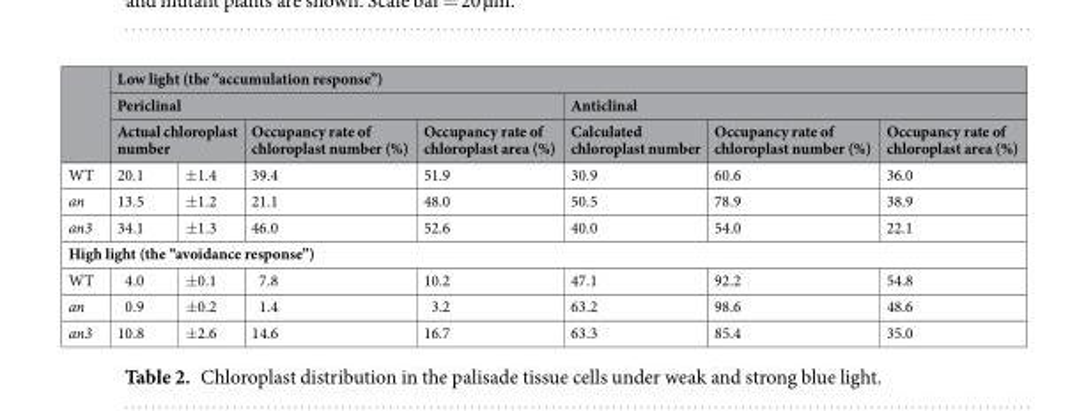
<table><thead><tr><td rowspan="4">WT</td><td colspan="7">Low light (the “accumulation response”)</td></tr><tr><td colspan="4">Periclinal</td><td colspan="3">Anticlinal</td></tr><tr><td colspan="2">Actual chloroplast number</td><td rowspan="2">Occupancy rate of chloroplast number (%) 39.4</td><td rowspan="2">Occupancy rate of chloroplast area (%) 51.9</td><td rowspan="2">Calculated chloroplast number 30.9</td><td rowspan="2">Occupancy rate of chloroplast number (%) 60.6</td><td rowspan="2">Occupancy rate of chloroplast area (%) 36.0</td></tr><tr><td>20.1</td><td>±1.4</td></tr></thead><tbody><tr><td>an</td><td>13.5</td><td>±1.2</td><td>21.1</td><td>48.0</td><td>50.5</td><td>78.9</td><td>38.9</td></tr><tr><td>an3</td><td>34.1</td><td>±1.3</td><td>46.0</td><td>52.6</td><td>40.0</td><td>54.0</td><td>22.1</td></tr><tr><td colspan="8">High light (the “avoidance response”)</td></tr><tr><td>WT</td><td>4.0</td><td>±0.1</td><td>7.8</td><td>10.2</td><td>47.1</td><td>92.2</td><td>54.8</td></tr><tr><td>an</td><td>0.9</td><td>±0.2</td><td>1.4</td><td>3.2</td><td>63.2</td><td>98.6</td><td>48.6</td></tr><tr><td>an3</td><td>10.8</td><td>±2.6</td><td>14.6</td><td>16.7</td><td>63.3</td><td>85.4</td><td>35.0</td></tr></tbody></table>